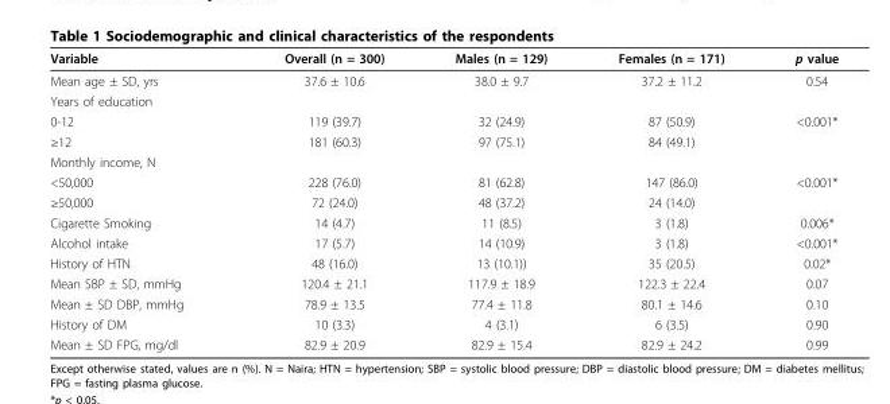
<table><thead><tr><td>Variable</td><td>Overall (n = 300)</td><td>Males (n = 129)</td><td>Females (n = 171)</td><td>p value</td></tr></thead><tbody><tr><td>Mean age ± SD, yrs</td><td>37.6 ± 10.6</td><td>38.0 ± 9.7</td><td>37.2 ± 11.2</td><td>0.54</td></tr><tr><td colspan="5">Years of education</td></tr><tr><td>0-12</td><td>119 (39.7)</td><td>32 (24.9)</td><td>87 (50.9)</td><td>&lt;0.001*</td></tr><tr><td>≥12</td><td>181 (60.3)</td><td>97 (75.1)</td><td>84 (49.1)</td><td></td></tr><tr><td colspan="5">Monthly income, N</td></tr><tr><td>&lt;50,000</td><td>228 (76.0)</td><td>81 (62.8)</td><td>147 (86.0)</td><td>&lt;0.001*</td></tr><tr><td>≥50,000</td><td>72 (24.0)</td><td>48 (37.2)</td><td>24 (14.0)</td><td></td></tr><tr><td>Cigarette Smoking</td><td>14 (4.7)</td><td>11 (8.5)</td><td>3 (1.8)</td><td>0.006*</td></tr><tr><td>Alcohol intake</td><td>17 (5.7)</td><td>14 (10.9)</td><td>3 (1.8)</td><td>&lt;0.001*</td></tr><tr><td>History of HTN</td><td>48 (16.0)</td><td>13 (10.1))</td><td>35 (20.5)</td><td>0.02*</td></tr><tr><td>Mean SBP ± SD, mmHg</td><td>120.4 ± 21.1</td><td>117.9 ± 18.9</td><td>122.3 ± 22.4</td><td>0.07</td></tr><tr><td>Mean ± SD DBP, mmHg</td><td>78.9 ± 13.5</td><td>77.4 ± 11.8</td><td>80.1 ± 14.6</td><td>0.10</td></tr><tr><td>History of DM</td><td>10 (3.3)</td><td>4 (3.1)</td><td>6 (3.5)</td><td>0.90</td></tr><tr><td>Mean ± SD FPG, mg/dl</td><td>82.9 ± 20.9</td><td>82.9 ± 15.4</td><td>82.9 ± 24.2</td><td>0.99</td></tr></tbody></table>